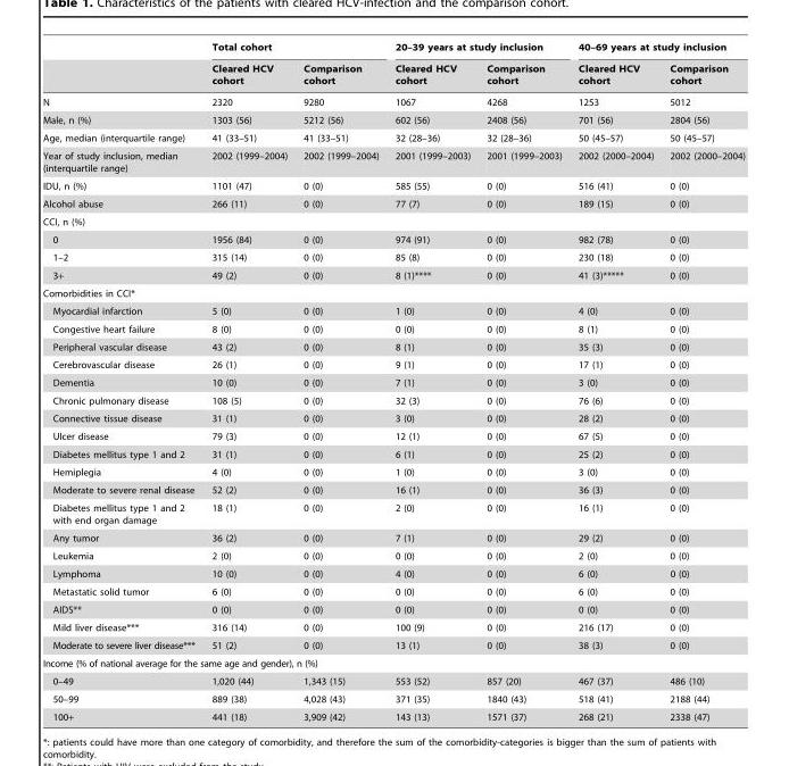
<table><thead><tr><td rowspan="2"></td><td colspan="2">Total cohort</td><td colspan="2">20–39 years at study inclusion</td><td colspan="2">40–69 years at study inclusion</td></tr><tr><td>Cleared HCV cohort</td><td>Comparison cohort</td><td>Cleared HCV cohort</td><td>Comparison cohort</td><td>Cleared HCV cohort</td><td>Comparison cohort</td></tr></thead><tbody><tr><td>N</td><td>2320</td><td>9280</td><td>1067</td><td>4268</td><td>1253</td><td>5012</td></tr><tr><td>Male, n (%)</td><td>1303 (56)</td><td>5212 (56)</td><td>602 (56)</td><td>2408 (56)</td><td>701 (56)</td><td>2804 (56)</td></tr><tr><td>Age, median (interquartile range)</td><td>41 (33–51)</td><td>41 (33–51)</td><td>32 (28–36)</td><td>32 (28–36)</td><td>50 (45–57)</td><td>50 (45–57)</td></tr><tr><td>Year of study inclusion, median (interquartile range)</td><td>2002 (1999–2004)</td><td>2002 (1999–2004)</td><td>2001 (1999–2003)</td><td>2001 (1999–2003)</td><td>2002 (2000–2004)</td><td>2002 (2000–2004)</td></tr><tr><td>IDU, n (%)</td><td>1101 (47)</td><td>0 (0)</td><td>585 (55)</td><td>0 (0)</td><td>516 (41)</td><td>0 (0)</td></tr><tr><td>Alcohol abuse</td><td>266 (11)</td><td>0 (0)</td><td>77 (7)</td><td>0 (0)</td><td>189 (15)</td><td>0 (0)</td></tr><tr><td colspan="7">CCI, n (%)</td></tr><tr><td>0</td><td>1956 (84)</td><td>0 (0)</td><td>974 (91)</td><td>0 (0)</td><td>982 (78)</td><td>0 (0)</td></tr><tr><td>1–2</td><td>315 (14)</td><td>0 (0)</td><td>85 (8)</td><td>0 (0)</td><td>230 (18)</td><td>0 (0)</td></tr><tr><td>3+</td><td>49 (2)</td><td>0 (0)</td><td>8 (1)****</td><td>0 (0)</td><td>41 (3)*****</td><td>0 (0)</td></tr><tr><td colspan="7">Comorbidities in CCI*</td></tr><tr><td>Myocardial infarction</td><td>5 (0)</td><td>0 (0)</td><td>1 (0)</td><td>0 (0)</td><td>4 (0)</td><td>0 (0)</td></tr><tr><td>Congestive heart failure</td><td>8 (0)</td><td>0 (0)</td><td>0 (0)</td><td>0 (0)</td><td>8 (1)</td><td>0 (0)</td></tr><tr><td>Peripheral vascular disease</td><td>43 (2)</td><td>0 (0)</td><td>8 (1)</td><td>0 (0)</td><td>35 (3)</td><td>0 (0)</td></tr><tr><td>Cerebrovascular disease</td><td>26 (1)</td><td>0 (0)</td><td>9 (1)</td><td>0 (0)</td><td>17 (1)</td><td>0 (0)</td></tr><tr><td>Dementia</td><td>10 (0)</td><td>0 (0)</td><td>7 (1)</td><td>0 (0)</td><td>3 (0)</td><td>0 (0)</td></tr><tr><td>Chronic pulmonary disease</td><td>108 (5)</td><td>0 (0)</td><td>32 (3)</td><td>0 (0)</td><td>76 (6)</td><td>0 (0)</td></tr><tr><td>Connective tissue disease</td><td>31 (1)</td><td>0 (0)</td><td>3 (0)</td><td>0 (0)</td><td>28 (2)</td><td>0 (0)</td></tr><tr><td>Ulcer disease</td><td>79 (3)</td><td>0 (0)</td><td>12 (1)</td><td>0 (0)</td><td>67 (5)</td><td>0 (0)</td></tr><tr><td>Diabetes mellitus type 1 and 2</td><td>31 (1)</td><td>0 (0)</td><td>6 (1)</td><td>0 (0)</td><td>25 (2)</td><td>0 (0)</td></tr><tr><td>Hemiplegia</td><td>4 (0)</td><td>0 (0)</td><td>1 (0)</td><td>0 (0)</td><td>3 (0)</td><td>0 (0)</td></tr><tr><td>Moderate to severe renal disease</td><td>52 (2)</td><td>0 (0)</td><td>16 (1)</td><td>0 (0)</td><td>36 (3)</td><td>0 (0)</td></tr><tr><td>Diabetes mellitus type 1 and 2 with end organ damage</td><td>18 (1)</td><td>0 (0)</td><td>2 (0)</td><td>0 (0)</td><td>16 (1)</td><td>0 (0)</td></tr><tr><td>Any tumor</td><td>36 (2)</td><td>0 (0)</td><td>7 (1)</td><td>0 (0)</td><td>29 (2)</td><td>0 (0)</td></tr><tr><td>Leukemia</td><td>2 (0)</td><td>0 (0)</td><td>0 (0)</td><td>0 (0)</td><td>2 (0)</td><td>0 (0)</td></tr><tr><td>Lymphoma</td><td>10 (0)</td><td>0 (0)</td><td>4 (0)</td><td>0 (0)</td><td>6 (0)</td><td>0 (0)</td></tr><tr><td>Metastatic solid tumor</td><td>6 (0)</td><td>0 (0)</td><td>0 (0)</td><td>0 (0)</td><td>6 (0)</td><td>0 (0)</td></tr><tr><td>AIDS**</td><td>0 (0)</td><td>0 (0)</td><td>0 (0)</td><td>0 (0)</td><td>0 (0)</td><td>0 (0)</td></tr><tr><td>Mild liver disease***</td><td>316 (14)</td><td>0 (0)</td><td>100 (9)</td><td>0 (0)</td><td>216 (17)</td><td>0 (0)</td></tr><tr><td>Moderate to severe liver disease***</td><td>51 (2)</td><td>0 (0)</td><td>13 (1)</td><td>0 (0)</td><td>38 (3)</td><td>0 (0)</td></tr><tr><td colspan="7">Income (% of national average for the same age and gender), n (%)</td></tr><tr><td>0–49</td><td>1,020 (44)</td><td>1,343 (15)</td><td>553 (52)</td><td>857 (20)</td><td>467 (37)</td><td>486 (10)</td></tr><tr><td>50–99</td><td>889 (38)</td><td>4,028 (43)</td><td>371 (35)</td><td>1840 (43)</td><td>518 (41)</td><td>2188 (44)</td></tr><tr><td>100+</td><td>441 (18)</td><td>3,909 (42)</td><td>143 (13)</td><td>1571 (37)</td><td>268 (21)</td><td>2338 (47)</td></tr></tbody></table>